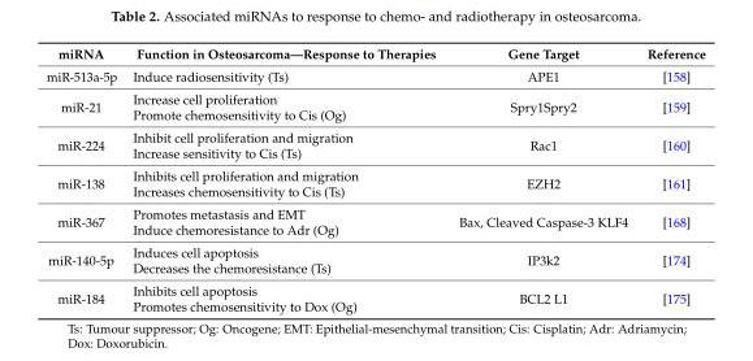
<table><thead><tr><td>miRNA</td><td>Function in Osteosarcoma—Response to Therapies</td><td>Gene Target</td><td>Reference</td></tr></thead><tbody><tr><td>miR-513a-5p</td><td>Induce radiosensitivity (Ts)</td><td>APE1</td><td>[158]</td></tr><tr><td>miR-21</td><td>Increase cell proliferation Promote chemosensitivity to Cis (Og)</td><td>Spry1Spry2</td><td>[159]</td></tr><tr><td>miR-224</td><td>Inhibit cell proliferation and migration Increase sensitivity to Cis (Ts)</td><td>Rac1</td><td>[160]</td></tr><tr><td>miR-138</td><td>Inhibits cell proliferation and migration Increases chemosensitivity to Cis (Ts)</td><td>EZH2</td><td>[161]</td></tr><tr><td>miR-367</td><td>Promotes metastasis and EMT Induce chemoresistance to Adr (Og)</td><td>Bax, Cleaved Caspase-3 KLF4</td><td>[168]</td></tr><tr><td>miR-140-5p</td><td>Induces cell apoptosis Decreases the chemoresistance (Ts)</td><td>IP3k2</td><td>[174]</td></tr><tr><td>miR-184</td><td>Inhibits cell apoptosis Promotes chemosensitivity to Dox (Og)</td><td>BCL2 L1</td><td>[175]</td></tr></tbody></table>